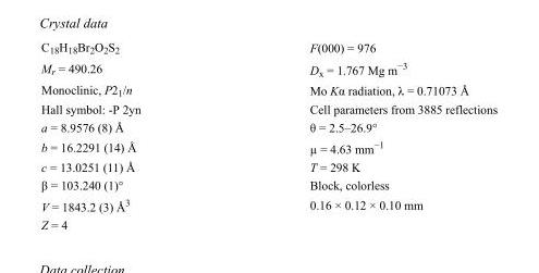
<table><tbody><tr><td>C<sub>18</sub>H<sub>18</sub>Br<sub>2</sub>O<sub>2</sub>S<sub>2</sub></td><td>F(000) = 976</td></tr><tr><td>M<sub>r</sub> = 490.26</td><td>D<sub>x</sub> = 1.767 Mg m<sup>−3</sup></td></tr><tr><td>Monoclinic, P2<sub>1</sub>/n</td><td>Mo Kα radiation, λ = 0.71073 Å</td></tr><tr><td>Hall symbol: -P 2yn</td><td>Cell parameters from 3885 reflections</td></tr><tr><td>a = 8.9576 (8) Å</td><td>θ = 2.5–26.9°</td></tr><tr><td>b = 16.2291 (14) Å</td><td>µ = 4.63 mm<sup>−1</sup></td></tr><tr><td>c = 13.0251 (11) Å</td><td>T = 298 K</td></tr><tr><td>β = 103.240 (1)°</td><td>Block, colorless</td></tr><tr><td>V = 1843.2 (3) Å<sup>3</sup></td><td>0.16 × 0.12 × 0.10 mm</td></tr><tr><td>Z = 4</td><td></td></tr></tbody></table>